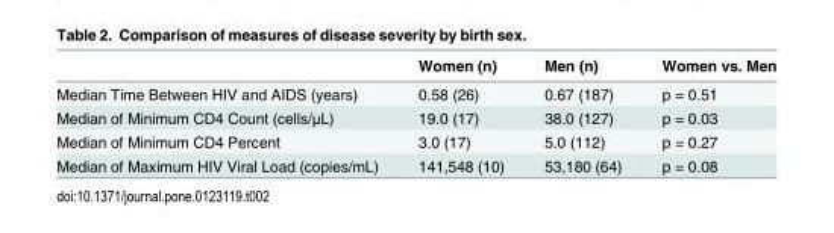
<table><thead><tr><td></td><td>Women (n)</td><td>Men (n)</td><td>Women vs. Men</td></tr></thead><tbody><tr><td>Median Time Between HIV and AIDS (years)</td><td>0.58 (26)</td><td>0.67 (187)</td><td>p = 0.51</td></tr><tr><td>Median of Minimum CD4 Count (cells/μL)</td><td>19.0 (17)</td><td>38.0 (127)</td><td>p = 0.03</td></tr><tr><td>Median of Minimum CD4 Percent</td><td>3.0 (17)</td><td>5.0 (112)</td><td>p = 0.27</td></tr><tr><td>Median of Maximum HIV Viral Load (copies/mL)</td><td>141,548 (10)</td><td>53,180 (64)</td><td>p = 0.08</td></tr></tbody></table>